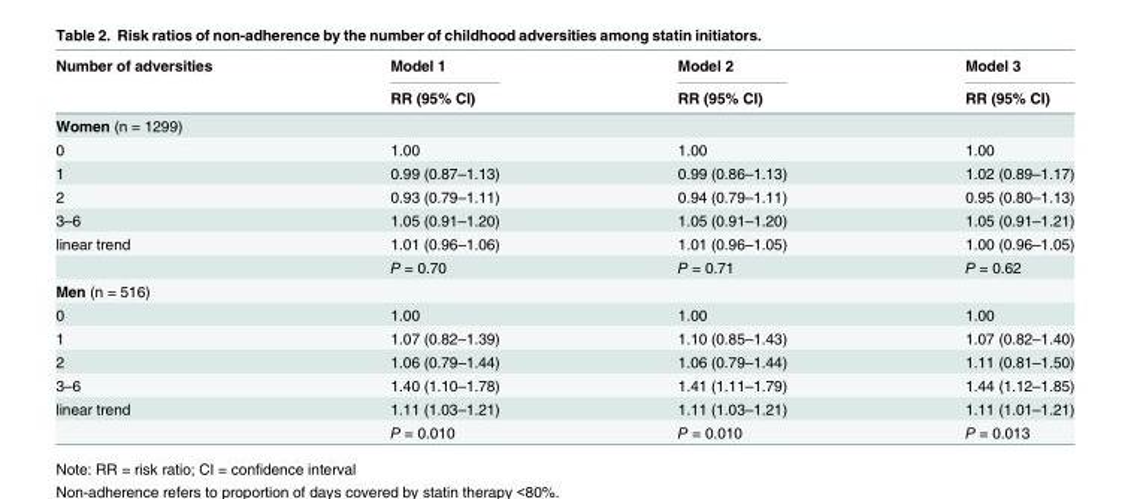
<table><thead><tr><td rowspan="2">Number of adversities</td><td rowspan="2">Model 1 RR (95% CI)</td><td rowspan="2">Model 2 RR (95% CI)</td><td rowspan="2">Model 3 RR (95% CI)</td></tr><tr></tr></thead><tbody><tr><td colspan="4">Women (n = 1299)</td></tr><tr><td>0</td><td>1.00</td><td>1.00</td><td>1.00</td></tr><tr><td>1</td><td>0.99 (0.87–1.13)</td><td>0.99 (0.86–1.13)</td><td>1.02 (0.89–1.17)</td></tr><tr><td>2</td><td>0.93 (0.79–1.11)</td><td>0.94 (0.79–1.11)</td><td>0.95 (0.80–1.13)</td></tr><tr><td>3–6</td><td>1.05 (0.91–1.20)</td><td>1.05 (0.91–1.20)</td><td>1.05 (0.91–1.21)</td></tr><tr><td rowspan="2">linear trend</td><td>1.01 (0.96–1.06)</td><td>1.01 (0.96–1.05)</td><td>1.00 (0.96–1.05)</td></tr><tr><td>P = 0.70</td><td>P = 0.71</td><td>P = 0.62</td></tr><tr><td colspan="4">Men (n = 516)</td></tr><tr><td>0</td><td>1.00</td><td>1.00</td><td>1.00</td></tr><tr><td>1</td><td>1.07 (0.82–1.39)</td><td>1.10 (0.85–1.43)</td><td>1.07 (0.82–1.40)</td></tr><tr><td>2</td><td>1.06 (0.79–1.44)</td><td>1.06 (0.79–1.44)</td><td>1.11 (0.81–1.50)</td></tr><tr><td>3–6</td><td>1.40 (1.10–1.78)</td><td>1.41 (1.11–1.79)</td><td>1.44 (1.12–1.85)</td></tr><tr><td rowspan="2">linear trend</td><td>1.11 (1.03–1.21)</td><td>1.11 (1.03–1.21)</td><td>1.11 (1.01–1.21)</td></tr><tr><td>P = 0.010</td><td>P = 0.010</td><td>P = 0.013</td></tr></tbody></table>